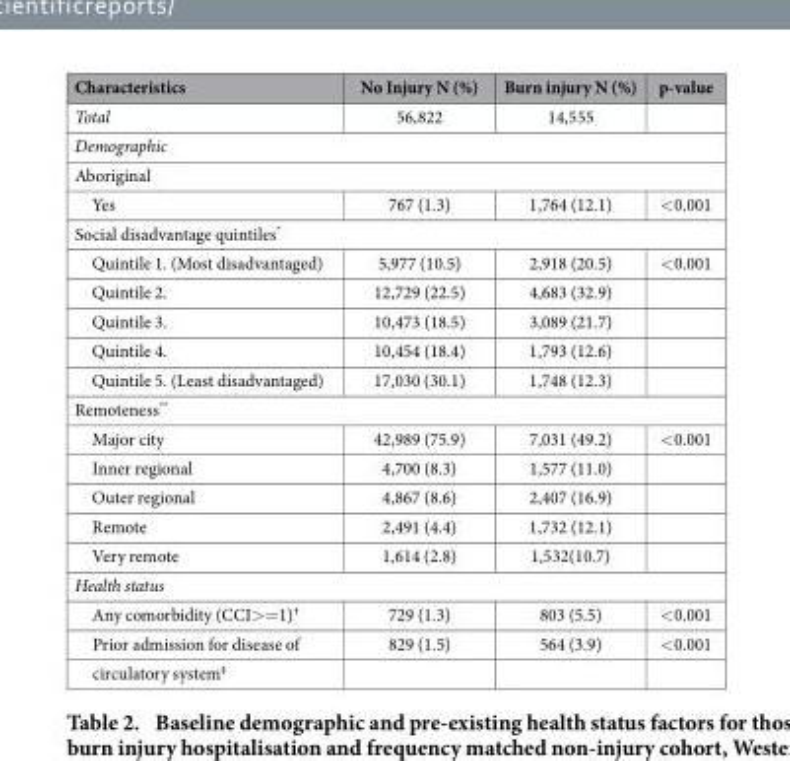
<table><thead><tr><td>Characteristics</td><td>No Injury N (%)</td><td>Burn injury N (%)</td><td>p-value</td></tr></thead><tbody><tr><td>Total</td><td>56,822</td><td>14,555</td><td></td></tr><tr><td colspan="4">Demographic</td></tr><tr><td colspan="4">Aboriginal</td></tr><tr><td>Yes</td><td>767 (1.3)</td><td>1,764 (12.1)</td><td>&lt; 0.001</td></tr><tr><td colspan="4">Social disadvantage quintiles*</td></tr><tr><td>Quintile 1. (Most disadvantaged)</td><td>5,977 (10.5)</td><td>2,918 (20.5)</td><td>&lt; 0.001</td></tr><tr><td>Quintile 2.</td><td>12,729 (22.5)</td><td>4,683 (32.9)</td><td></td></tr><tr><td>Quintile 3.</td><td>10,473 (18.5)</td><td>3,089 (21.7)</td><td></td></tr><tr><td>Quintile 4.</td><td>10,454 (18.4)</td><td>1,793 (12.6)</td><td></td></tr><tr><td>Quintile 5. (Least disadvantaged)</td><td>17,030 (30.1)</td><td>1,748 (12.3)</td><td></td></tr><tr><td colspan="4">Remoteness**</td></tr><tr><td>Major city</td><td>42,989 (75.9)</td><td>7,031 (49.2)</td><td>&lt; 0.001</td></tr><tr><td>Inner regional</td><td>4,700 (8.3)</td><td>1,577 (11.0)</td><td></td></tr><tr><td>Outer regional</td><td>4,867 (8.6)</td><td>2,407 (16.9)</td><td></td></tr><tr><td>Remote</td><td>2,491 (4.4)</td><td>1,732 (12.1)</td><td></td></tr><tr><td>Very remote</td><td>1,614 (2.8)</td><td>1,532(10.7)</td><td></td></tr><tr><td colspan="4">Health status</td></tr><tr><td>Any comorbidity (CCI&gt; = 1)†</td><td>729 (1.3)</td><td>803 (5.5)</td><td>&lt; 0.001</td></tr><tr><td>Prior admission for disease of</td><td>829 (1.5)</td><td>564 (3.9)</td><td>&lt; 0.001</td></tr><tr><td>circulatory system‡</td><td></td><td></td><td></td></tr></tbody></table>